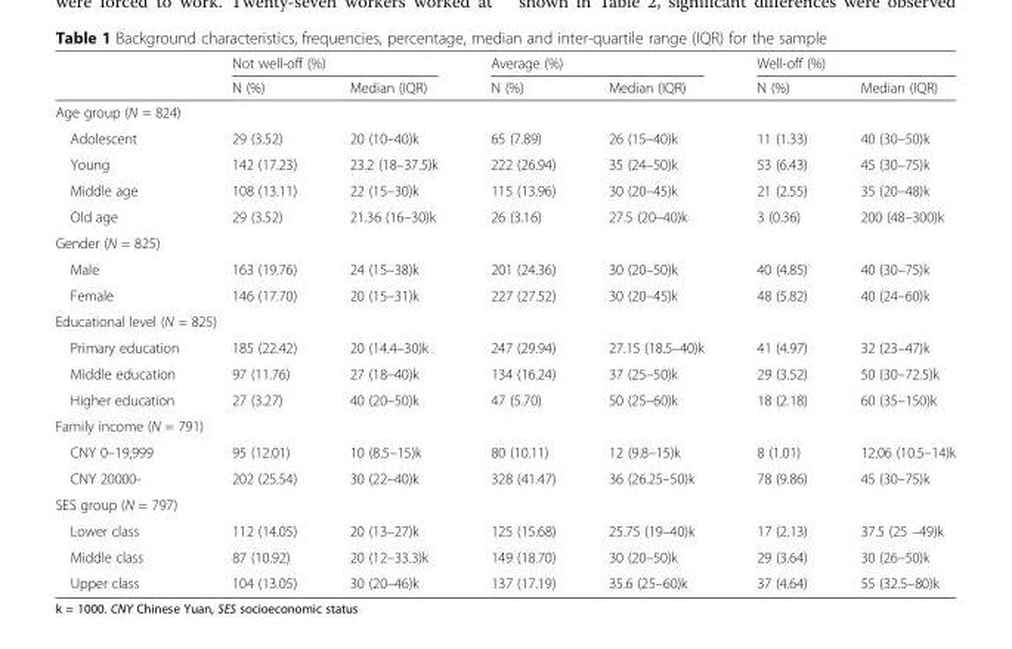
<table><thead><tr><td rowspan="2"></td><td colspan="2">Not well-off (%)</td><td colspan="2">Average (%)</td><td colspan="2">Well-off (%)</td></tr><tr><td>N (%)</td><td>Median (IQR)</td><td>N (%)</td><td>Median (IQR)</td><td>N (%)</td><td>Median (IQR)</td></tr></thead><tbody><tr><td colspan="7">Age group (N = 824)</td></tr><tr><td>Adolescent</td><td>29 (3.52)</td><td>20 (10–40)k</td><td>65 (7.89)</td><td>26 (15–40)k</td><td>11 (1.33)</td><td>40 (30–50)k</td></tr><tr><td>Young</td><td>142 (17.23)</td><td>23.2 (18–37.5)k</td><td>222 (26.94)</td><td>35 (24–50)k</td><td>53 (6.43)</td><td>45 (30–75)k</td></tr><tr><td>Middle age</td><td>108 (13.11)</td><td>22 (15–30)k</td><td>115 (13.96)</td><td>30 (20–45)k</td><td>21 (2.55)</td><td>35 (20–48)k</td></tr><tr><td>Old age</td><td>29 (3.52)</td><td>21.36 (16–30)k</td><td>26 (3.16)</td><td>27.5 (20–40)k</td><td>3 (0.36)</td><td>200 (48–300)k</td></tr><tr><td colspan="7">Gender (N = 825)</td></tr><tr><td>Male</td><td>163 (19.76)</td><td>24 (15–38)k</td><td>201 (24.36)</td><td>30 (20–50)k</td><td>40 (4.85)</td><td>40 (30–75)k</td></tr><tr><td>Female</td><td>146 (17.70)</td><td>20 (15–31)k</td><td>227 (27.52)</td><td>30 (20–45)k</td><td>48 (5.82)</td><td>40 (24–60)k</td></tr><tr><td colspan="7">Educational level (N = 825)</td></tr><tr><td>Primary education</td><td>185 (22.42)</td><td>20 (14.4–30)k</td><td>247 (29.94)</td><td>27.15 (18.5–40)k</td><td>41 (4.97)</td><td>32 (23–47)k</td></tr><tr><td>Middle education</td><td>97 (11.76)</td><td>27 (18–40)k</td><td>134 (16.24)</td><td>37 (25–50)k</td><td>29 (3.52)</td><td>50 (30–72.5)k</td></tr><tr><td>Higher education</td><td>27 (3.27)</td><td>40 (20–50)k</td><td>47 (5.70)</td><td>50 (25–60)k</td><td>18 (2.18)</td><td>60 (35–150)k</td></tr><tr><td colspan="7">Family income (N = 791)</td></tr><tr><td>CNY 0–19,999</td><td>95 (12.01)</td><td>10 (8.5–15)k</td><td>80 (10.11)</td><td>12 (9.8–15)k</td><td>8 (1.01)</td><td>12.06 (10.5–14)k</td></tr><tr><td>CNY 20000-</td><td>202 (25.54)</td><td>30 (22–40)k</td><td>328 (41.47)</td><td>36 (26.25–50)k</td><td>78 (9.86)</td><td>45 (30–75)k</td></tr><tr><td colspan="7">SES group (N = 797)</td></tr><tr><td>Lower class</td><td>112 (14.05)</td><td>20 (13–27)k</td><td>125 (15.68)</td><td>25.75 (19–40)k</td><td>17 (2.13)</td><td>37.5 (25 –49)k</td></tr><tr><td>Middle class</td><td>87 (10.92)</td><td>20 (12–33.3)k</td><td>149 (18.70)</td><td>30 (20–50)k</td><td>29 (3.64)</td><td>30 (26–50)k</td></tr><tr><td>Upper class</td><td>104 (13.05)</td><td>30 (20–46)k</td><td>137 (17.19)</td><td>35.6 (25–60)k</td><td>37 (4.64)</td><td>55 (32.5–80)k</td></tr></tbody></table>